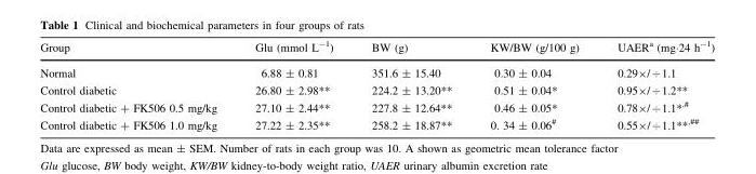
<table><thead><tr><td>Group</td><td>Glu (mmol L<sup>-1</sup>)</td><td>BW (g)</td><td>KW/BW (g/100 g)</td><td>UAER<sup>a</sup> (mg·24 h<sup>-1</sup>)</td></tr></thead><tbody><tr><td>Normal</td><td>6.88 ± 0.81</td><td>351.6 ± 15.40</td><td>0.30 ± 0.04</td><td>0.29×/÷1.1</td></tr><tr><td>Control diabetic</td><td>26.80 ± 2.98**</td><td>224.2 ± 13.20**</td><td>0.51 ± 0.04*</td><td>0.95×/÷1.2**</td></tr><tr><td>Control diabetic + FK506 0.5 mg/kg</td><td>27.10 ± 2.44**</td><td>227.8 ± 12.64**</td><td>0.46 ± 0.05*</td><td>0.78×/÷1.1*<sup>,#</sup></td></tr><tr><td>Control diabetic + FK506 1.0 mg/kg</td><td>27.22 ± 2.35**</td><td>258.2 ± 18.87**</td><td>0. 34 ± 0.06<sup>#</sup></td><td>0.55×/÷1.1**<sup>,##</sup></td></tr></tbody></table>